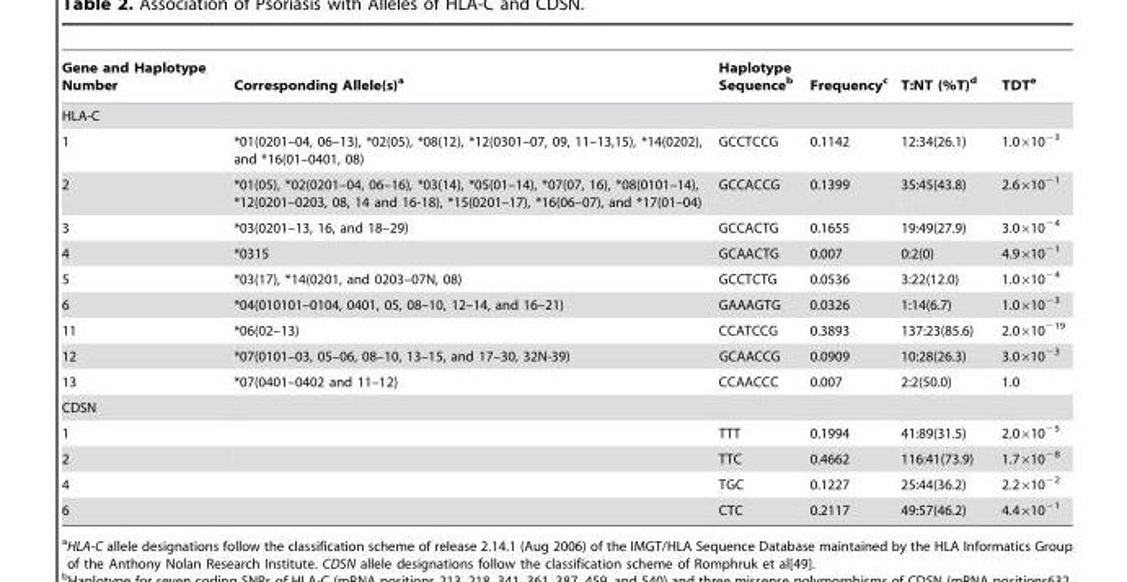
<table><thead><tr><td>Gene and Haplotype Number</td><td>Corresponding Allele(s)<sup>a</sup></td><td>Haplotype Sequence<sup>b</sup></td><td>Frequency<sup>c</sup></td><td>T:NT (%T)d</td><td>TDT<sup>e</sup></td></tr></thead><tbody><tr><td colspan="6">HLA-C</td></tr><tr><td>1</td><td>*01(0201–04, 06–13), *02(05), *08(12), *12(0301–07, 09, 11–13,15), *14(0202), and *16(01–0401, 08)</td><td>GCCTCCG</td><td>0.1142</td><td>12:34(26.1)</td><td>1.0×10<sup>−3</sup></td></tr><tr><td>2</td><td>*01(05), *02(0201–04, 06–16), *03(14), *05(01–14), *07(07, 16), *08(0101–14), *12(0201–0203, 08, 14 and 16-18), *15(0201–17), *16(06–07), and *17(01–04)</td><td>GCCACCG</td><td>0.1399</td><td>35:45(43.8)</td><td>2.6×10<sup>−1</sup></td></tr><tr><td>3</td><td>*03(0201–13, 16, and 18–29)</td><td>GCCACTG</td><td>0.1655</td><td>19:49(27.9)</td><td>3.0×10<sup>−4</sup></td></tr><tr><td>4</td><td>*0315</td><td>GCAACTG</td><td>0.007</td><td>0:2(0)</td><td>4.9×10<sup>−1</sup></td></tr><tr><td>5</td><td>*03(17), *14(0201, and 0203–07N, 08)</td><td>GCCTCTG</td><td>0.0536</td><td>3:22(12.0)</td><td>1.0×10<sup>−4</sup></td></tr><tr><td>6</td><td>*04(010101–0104, 0401, 05, 08–10, 12–14, and 16–21)</td><td>GAAAGTG</td><td>0.0326</td><td>1:14(6.7)</td><td>1.0×10<sup>−3</sup></td></tr><tr><td>11</td><td>*06(02–13)</td><td>CCATCCG</td><td>0.3893</td><td>137:23(85.6)</td><td>2.0×10<sup>−19</sup></td></tr><tr><td>12</td><td>*07(0101–03, 05–06, 08–10, 13–15, and 17–30, 32N-39)</td><td>GCAACCG</td><td>0.0909</td><td>10:28(26.3)</td><td>3.0×10<sup>−3</sup></td></tr><tr><td>13</td><td>*07(0401–0402 and 11–12)</td><td>CCAACCC</td><td>0.007</td><td>2:2(50.0)</td><td>1.0</td></tr><tr><td colspan="6">CDSN</td></tr><tr><td>1</td><td></td><td>TTT</td><td>0.1994</td><td>41:89(31.5)</td><td>2.0×10<sup>−5</sup></td></tr><tr><td>2</td><td></td><td>TTC</td><td>0.4662</td><td>116:41(73.9)</td><td>1.7×10<sup>−8</sup></td></tr><tr><td>4</td><td></td><td>TGC</td><td>0.1227</td><td>25:44(36.2)</td><td>2.2×10<sup>−2</sup></td></tr><tr><td>6</td><td></td><td>CTC</td><td>0.2117</td><td>49:57(46.2)</td><td>4.4×10<sup>−1</sup></td></tr></tbody></table>